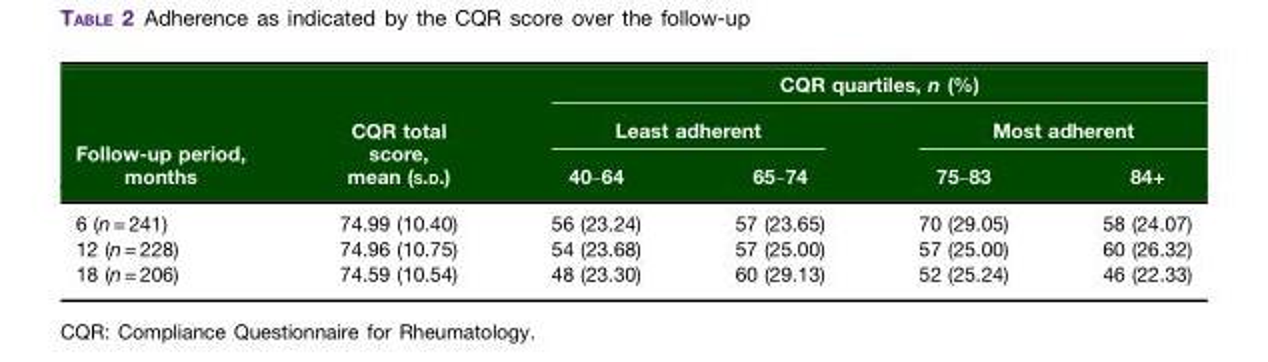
<table><thead><tr><td rowspan="3">Follow-up period, months</td><td rowspan="3">CQR total score, mean (S.D.)</td><td colspan="4">CQR quartiles, n (%)</td></tr><tr><td colspan="2">Least adherent</td><td colspan="2">Most adherent</td></tr><tr><td>40–64</td><td>65–74</td><td>75–83</td><td>84+</td></tr></thead><tbody><tr><td>6 (n = 241)</td><td>74.99 (10.40)</td><td>56 (23.24)</td><td>57 (23.65)</td><td>70 (29.05)</td><td>58 (24.07)</td></tr><tr><td>12 (n = 228)</td><td>74.96 (10.75)</td><td>54 (23.68)</td><td>57 (25.00)</td><td>57 (25.00)</td><td>60 (26.32)</td></tr><tr><td>18 (n = 206)</td><td>74.59 (10.54)</td><td>48 (23.30)</td><td>60 (29.13)</td><td>52 (25.24)</td><td>46 (22.33)</td></tr></tbody></table>